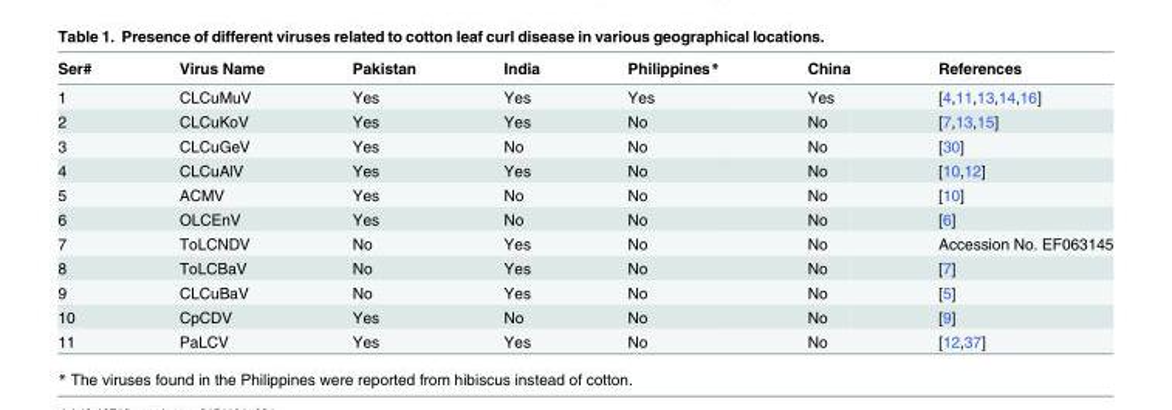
<table><thead><tr><td>Ser#</td><td>Virus Name</td><td>Pakistan</td><td>India</td><td>Philippines*</td><td>China</td><td>References</td></tr></thead><tbody><tr><td>1</td><td>CLCuMuV</td><td>Yes</td><td>Yes</td><td>Yes</td><td>Yes</td><td>[4,11,13,14,16]</td></tr><tr><td>2</td><td>CLCuKoV</td><td>Yes</td><td>Yes</td><td>No</td><td>No</td><td>[7,13,15]</td></tr><tr><td>3</td><td>CLCuGeV</td><td>Yes</td><td>No</td><td>No</td><td>No</td><td>[30]</td></tr><tr><td>4</td><td>CLCuAlV</td><td>Yes</td><td>Yes</td><td>No</td><td>No</td><td>[10,12]</td></tr><tr><td>5</td><td>ACMV</td><td>Yes</td><td>No</td><td>No</td><td>No</td><td>[10]</td></tr><tr><td>6</td><td>OLCEnV</td><td>Yes</td><td>No</td><td>No</td><td>No</td><td>[6]</td></tr><tr><td>7</td><td>ToLCNDV</td><td>No</td><td>Yes</td><td>No</td><td>No</td><td>Accession No. EF063145</td></tr><tr><td>8</td><td>ToLCBaV</td><td>No</td><td>Yes</td><td>No</td><td>No</td><td>[7]</td></tr><tr><td>9</td><td>CLCuBaV</td><td>No</td><td>Yes</td><td>No</td><td>No</td><td>[5]</td></tr><tr><td>10</td><td>CpCDV</td><td>Yes</td><td>No</td><td>No</td><td>No</td><td>[9]</td></tr><tr><td>11</td><td>PaLCV</td><td>Yes</td><td>Yes</td><td>No</td><td>No</td><td>[12,37]</td></tr></tbody></table>